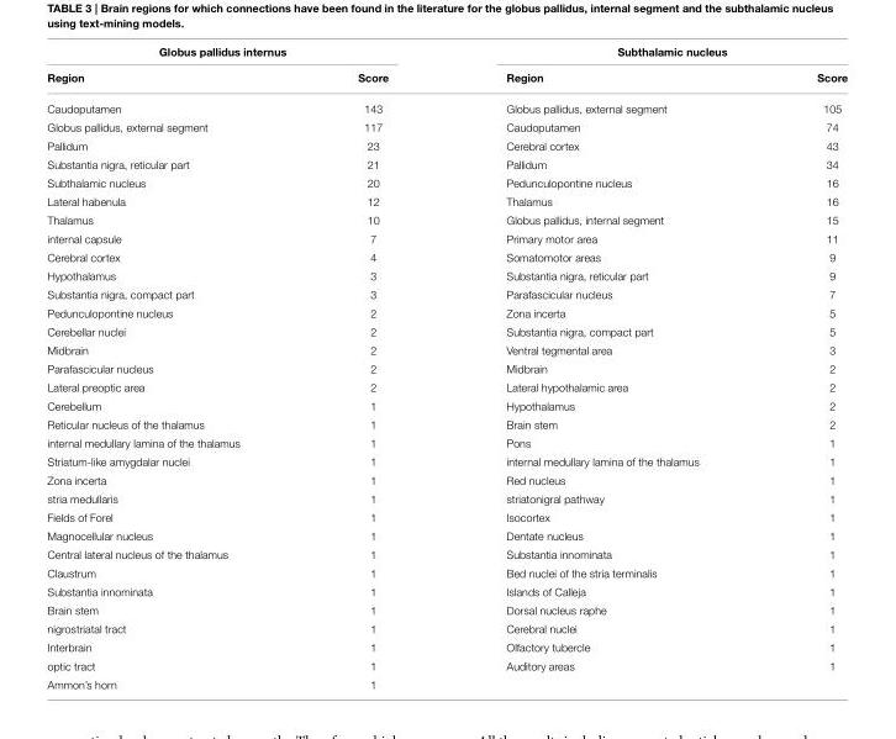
<table><thead><tr><td colspan="2">Globus pallidus internus</td><td colspan="2">Subthalamic nucleus</td></tr><tr><td>Region</td><td>Score</td><td>Region</td><td>Score</td></tr></thead><tbody><tr><td>Caudoputamen</td><td>143</td><td>Globus pallidus, external segment</td><td>105</td></tr><tr><td>Globus pallidus, external segment</td><td>117</td><td>Caudoputamen</td><td>74</td></tr><tr><td>Pallidum</td><td>23</td><td>Cerebral cortex</td><td>43</td></tr><tr><td>Substantia nigra, reticular part</td><td>21</td><td>Pallidum</td><td>34</td></tr><tr><td>Subthalamic nucleus</td><td>20</td><td>Pedunculopontine nucleus</td><td>16</td></tr><tr><td>Lateral habenula</td><td>12</td><td>Thalamus</td><td>16</td></tr><tr><td>Thalamus</td><td>10</td><td>Globus pallidus, internal segment</td><td>15</td></tr><tr><td>internal capsule</td><td>7</td><td>Primary motor area</td><td>11</td></tr><tr><td>Cerebral cortex</td><td>4</td><td>Somatomotor areas</td><td>9</td></tr><tr><td>Hypothalamus</td><td>3</td><td>Substantia nigra, reticular part</td><td>9</td></tr><tr><td>Substantia nigra, compact part</td><td>3</td><td>Parafascicular nucleus</td><td>7</td></tr><tr><td>Pedunculopontine nucleus</td><td>2</td><td>Zona incerta</td><td>5</td></tr><tr><td>Cerebellar nuclei</td><td>2</td><td>Substantia nigra, compact part</td><td>5</td></tr><tr><td>Midbrain</td><td>2</td><td>Ventral tegmental area</td><td>3</td></tr><tr><td>Parafascicular nucleus</td><td>2</td><td>Midbrain</td><td>2</td></tr><tr><td>Lateral preoptic area</td><td>2</td><td>Lateral hypothalamic area</td><td>2</td></tr><tr><td>Cerebellum</td><td>1</td><td>Hypothalamus</td><td>2</td></tr><tr><td>Reticular nucleus of the thalamus</td><td>1</td><td>Brain stem</td><td>2</td></tr><tr><td>internal medullary lamina of the thalamus</td><td>1</td><td>Pons</td><td>1</td></tr><tr><td>Striatum-like amygdalar nuclei</td><td>1</td><td>internal medullary lamina of the thalamus</td><td>1</td></tr><tr><td>Zona incerta</td><td>1</td><td>Red nucleus</td><td>1</td></tr><tr><td>stria medullaris</td><td>1</td><td>striatonigral pathway</td><td>1</td></tr><tr><td>Fields of Forel</td><td>1</td><td>Isocortex</td><td>1</td></tr><tr><td>Magnocellular nucleus</td><td>1</td><td>Dentate nucleus</td><td>1</td></tr><tr><td>Central lateral nucleus of the thalamus</td><td>1</td><td>Substantia innominata</td><td>1</td></tr><tr><td>Claustrum</td><td>1</td><td>Bed nuclei of the stria terminalis</td><td>1</td></tr><tr><td>Substantia innominata</td><td>1</td><td>Islands of Calleja</td><td>1</td></tr><tr><td>Brain stem</td><td>1</td><td>Dorsal nucleus raphe</td><td>1</td></tr><tr><td>nigrostriatal tract</td><td>1</td><td>Cerebral nuclei</td><td>1</td></tr><tr><td>Interbrain</td><td>1</td><td>Olfactory tubercle</td><td>1</td></tr><tr><td>optic tract</td><td>1</td><td>Auditory areas</td><td>1</td></tr><tr><td>Ammon’s horn</td><td>1</td><td></td><td></td></tr></tbody></table>